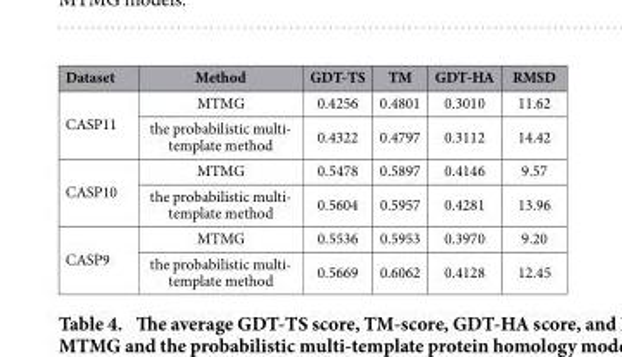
<table><thead><tr><td>Dataset</td><td>Method</td><td>GDT-TS</td><td>TM</td><td>GDT-HA</td><td>RMSD</td></tr></thead><tbody><tr><td rowspan="2">CASP11</td><td>MTMG</td><td>0.4256</td><td>0.4801</td><td>0.3010</td><td>11.62</td></tr><tr><td>the probabilistic multi- template method</td><td>0.4322</td><td>0.4797</td><td>0.3112</td><td>14.42</td></tr><tr><td rowspan="2">CASP10</td><td>MTMG</td><td>0.5478</td><td>0.5897</td><td>0.4146</td><td>9.57</td></tr><tr><td>the probabilistic multi- template method</td><td>0.5604</td><td>0.5957</td><td>0.4281</td><td>13.96</td></tr><tr><td rowspan="2">CASP9</td><td>MTMG</td><td>0.5536</td><td>0.5953</td><td>0.3970</td><td>9.20</td></tr><tr><td>the probabilistic multi- template method</td><td>0.5669</td><td>0.6062</td><td>0.4128</td><td>12.45</td></tr></tbody></table>